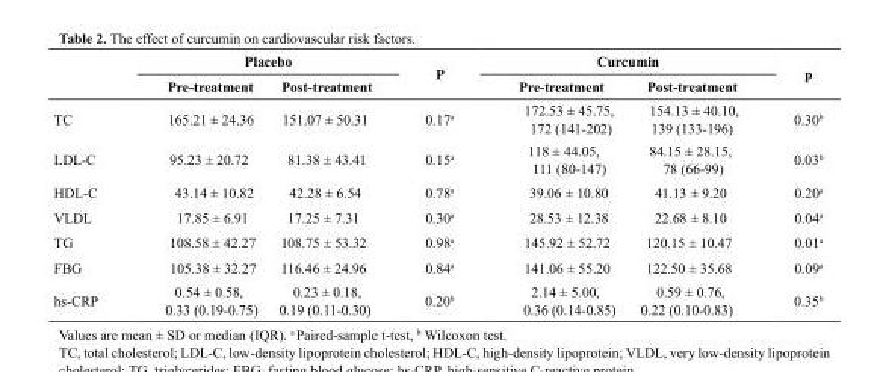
<table><thead><tr><td rowspan="2"></td><td rowspan="2">Placebo Pre-treatment Post-treatment</td><td rowspan="2">P</td><td rowspan="2">Curcumin Pre-treatment Post-treatment</td><td rowspan="2">p</td></tr><tr></tr></thead><tbody><tr><td>TC</td><td>165.21 ± 24.36 151.07 ± 50.31</td><td>0.17<sup>a</sup></td><td>172.53 ± 45.75, 154.13 ± 40.10, 172 (141-202) 139 (133-196)</td><td>0.30<sup>b</sup></td></tr><tr><td>LDL-C</td><td>95.23 ± 20.72 81.38 ± 43.41</td><td>0.15<sup>a</sup></td><td>118 ± 44.05, 84.15 ± 28.15, 111 (80-147) 78 (66-99)</td><td>0.03<sup>b</sup></td></tr><tr><td>HDL-C</td><td>43.14 ± 10.82 42.28 ± 6.54</td><td>0.78<sup>a</sup></td><td>39.06 ± 10.80 41.13 ± 9.20</td><td>0.20<sup>a</sup></td></tr><tr><td>VLDL</td><td>17.85 ± 6.91 17.25 ± 7.31</td><td>0.30<sup>a</sup></td><td>28.53 ± 12.38 22.68 ± 8.10</td><td>0.04<sup>a</sup></td></tr><tr><td>TG</td><td>108.58 ± 42.27 108.75 ± 53.32</td><td>0.98<sup>a</sup></td><td>145.92 ± 52.72 120.15 ± 10.47</td><td>0.01<sup>a</sup></td></tr><tr><td>FBG</td><td>105.38 ± 32.27 116.46 ± 24.96</td><td>0.84<sup>a</sup></td><td>141.06 ± 55.20 122.50 ± 35.68</td><td>0.09<sup>a</sup></td></tr><tr><td>hs-CRP</td><td>0.54 ± 0.58, 0.23 ± 0.18, 0.33 (0.19-0.75) 0.19 (0.11-0.30)</td><td>0.20<sup>b</sup></td><td>2.14 ± 5.00, 0.59 ± 0.76, 0.36 (0.14-0.85) 0.22 (0.10-0.83)</td><td>0.35<sup>b</sup></td></tr></tbody></table>